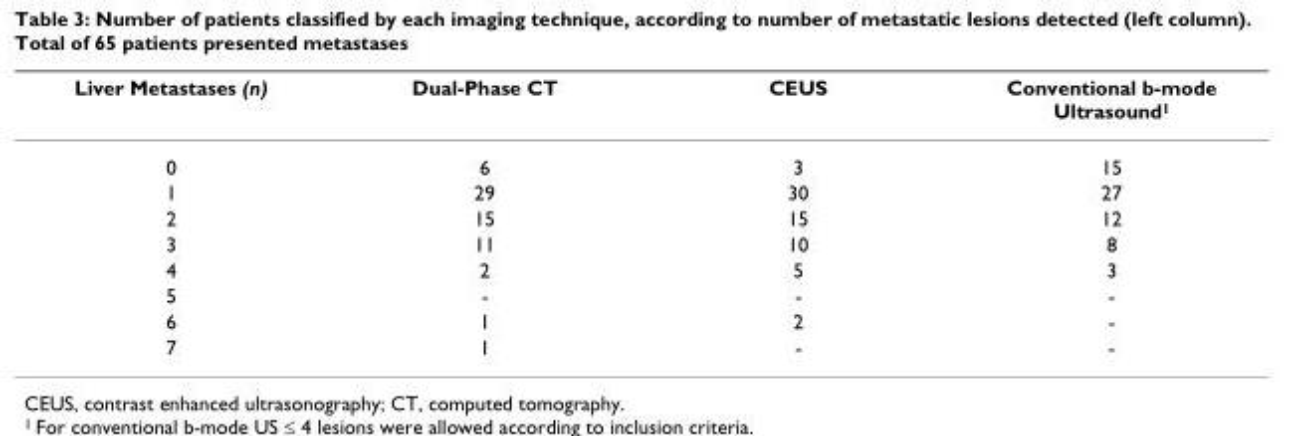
<table><thead><tr><td>Liver Metastases (n)</td><td>Dual-Phase CT</td><td>CEUS</td><td>Conventional b-mode Ultrasound<sup>1</sup></td></tr></thead><tbody><tr><td>0</td><td>6</td><td>3</td><td>15</td></tr><tr><td>1</td><td>29</td><td>30</td><td>27</td></tr><tr><td>2</td><td>15</td><td>15</td><td>12</td></tr><tr><td>3</td><td>11</td><td>10</td><td>8</td></tr><tr><td>4</td><td>2</td><td>5</td><td>3</td></tr><tr><td>5</td><td>-</td><td>-</td><td>-</td></tr><tr><td>6</td><td>1</td><td>2</td><td>-</td></tr><tr><td>7</td><td>1</td><td>-</td><td>-</td></tr></tbody></table>